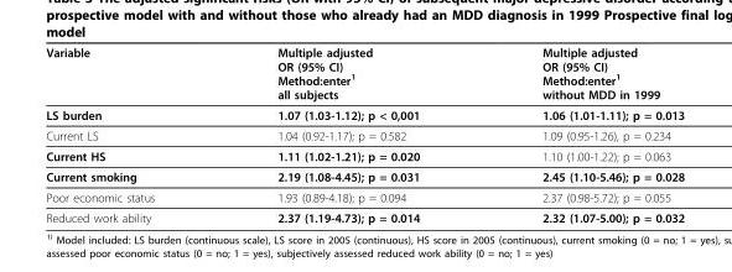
<table><thead><tr><td>Variable</td><td>Multiple adjusted OR (95% CI) Method:enter<sup>1</sup> all subjects</td><td>Multiple adjusted OR (95% CI) Method:enter<sup>1</sup> without MDD in 1999</td></tr></thead><tbody><tr><td>LS burden</td><td>1.07 (1.03-1.12); p &lt; 0,001</td><td>1.06 (1.01-1.11); p = 0.013</td></tr><tr><td>Current LS</td><td>1.04 (0.92-1.17); p = 0.582</td><td>1.09 (0.95-1.26), p = 0.234</td></tr><tr><td>Current HS</td><td>1.11 (1.02-1.21); p = 0.020</td><td>1.10 (1.00-1.22); p = 0.063</td></tr><tr><td>Current smoking</td><td>2.19 (1.08-4.45); p = 0.031</td><td>2.45 (1.10-5.46); p = 0.028</td></tr><tr><td>Poor economic status</td><td>1.93 (0.89-4.18); p = 0.094</td><td>2.37 (0.98-5.72); p = 0.055</td></tr><tr><td>Reduced work ability</td><td>2.37 (1.19-4.73); p = 0.014</td><td>2.32 (1.07-5.00); p = 0.032</td></tr></tbody></table>